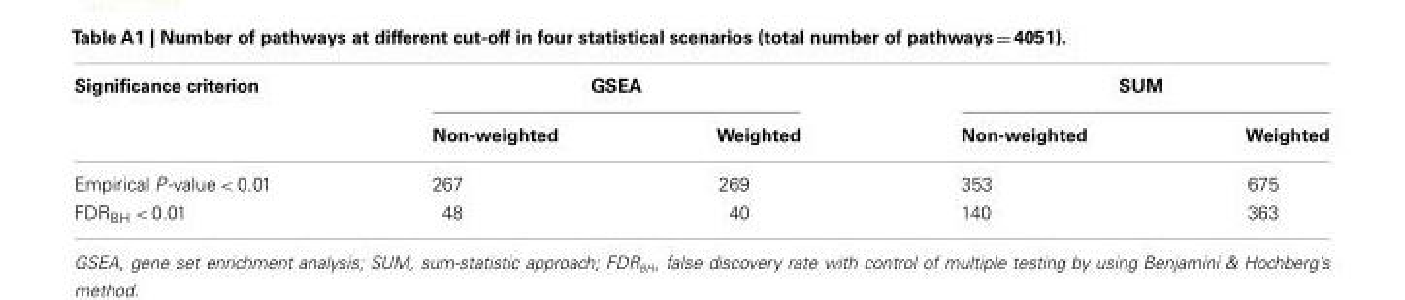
<table><thead><tr><td rowspan="2">Significance criterion</td><td colspan="2">GSEA</td><td colspan="2">SUM</td></tr><tr><td>Non-weighted</td><td>Weighted</td><td>Non-weighted</td><td>Weighted</td></tr></thead><tbody><tr><td>Empirical P-value &lt; 0.01</td><td>267</td><td>269</td><td>353</td><td>675</td></tr><tr><td>FDR<sub>BH</sub> &lt; 0.01</td><td>48</td><td>40</td><td>140</td><td>363</td></tr></tbody></table>